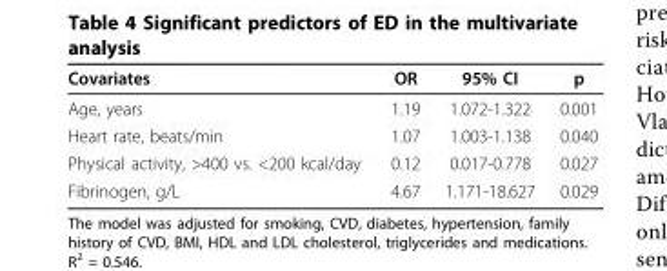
<table><thead><tr><td>Covariates</td><td>OR</td><td>95% CI</td><td>p</td></tr></thead><tbody><tr><td>Age, years</td><td>1.19</td><td>1.072-1.322</td><td>0.001</td></tr><tr><td>Heart rate, beats/min</td><td>1.07</td><td>1.003-1.138</td><td>0.040</td></tr><tr><td>Physical activity, &gt;400 vs. &lt;200 kcal/day</td><td>0.12</td><td>0.017-0.778</td><td>0.027</td></tr><tr><td>Fibrinogen, g/L</td><td>4.67</td><td>1.171-18.627</td><td>0.029</td></tr></tbody></table>